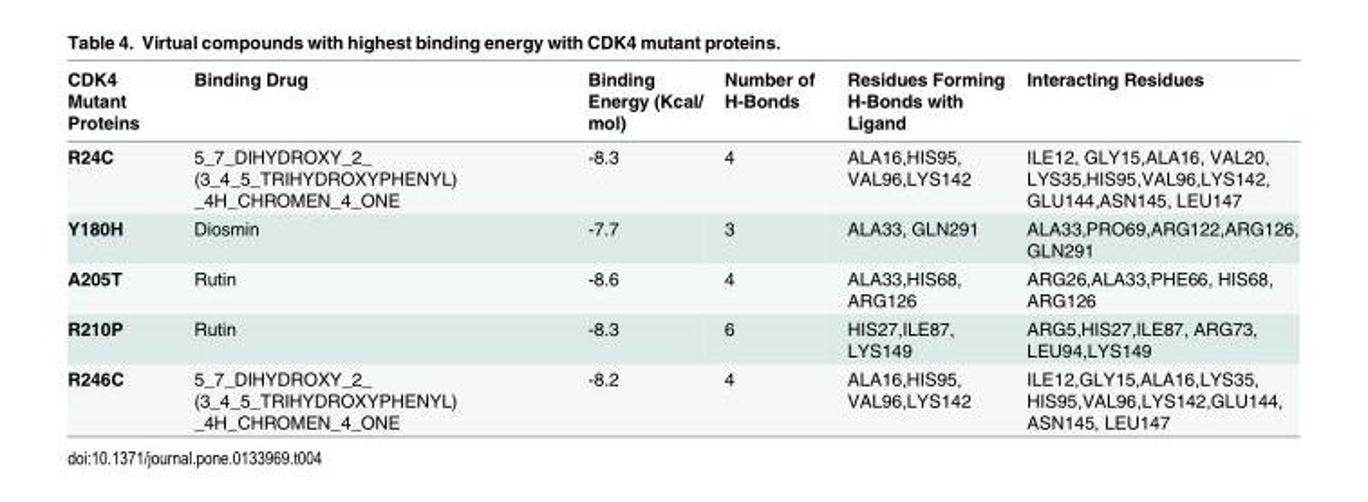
<table><thead><tr><td>CDK4 Mutant Proteins</td><td>Binding Drug</td><td>Binding Energy (Kcal/ mol)</td><td>Number of H-Bonds</td><td>Residues Forming H-Bonds with Ligand</td><td>Interacting Residues</td></tr></thead><tbody><tr><td>R24C</td><td>5_7_DIHYDROXY_2_ (3_4_5_TRIHYDROXYPHENYL) _4H_CHROMEN_4_ONE</td><td>-8.3</td><td>4</td><td>ALA16,HIS95, VAL96,LYS142</td><td>ILE12, GLY15,ALA16, VAL20, LYS35,HIS95,VAL96,LYS142, GLU144,ASN145, LEU147</td></tr><tr><td>Y180H</td><td>Diosmin</td><td>-7.7</td><td>3</td><td>ALA33, GLN291</td><td>ALA33,PRO69,ARG122,ARG126, GLN291</td></tr><tr><td>A205T</td><td>Rutin</td><td>-8.6</td><td>4</td><td>ALA33,HIS68, ARG126</td><td>ARG26,ALA33,PHE66, HIS68, ARG126</td></tr><tr><td>R210P</td><td>Rutin</td><td>-8.3</td><td>6</td><td>HIS27,ILE87, LYS149</td><td>ARG5,HIS27,ILE87, ARG73, LEU94,LYS149</td></tr><tr><td>R246C</td><td>5_7_DIHYDROXY_2_ (3_4_5_TRIHYDROXYPHENYL) _4H_CHROMEN_4_ONE</td><td>-8.2</td><td>4</td><td>ALA16,HIS95, VAL96,LYS142</td><td>ILE12,GLY15,ALA16,LYS35, HIS95,VAL96,LYS142,GLU144, ASN145, LEU147</td></tr></tbody></table>